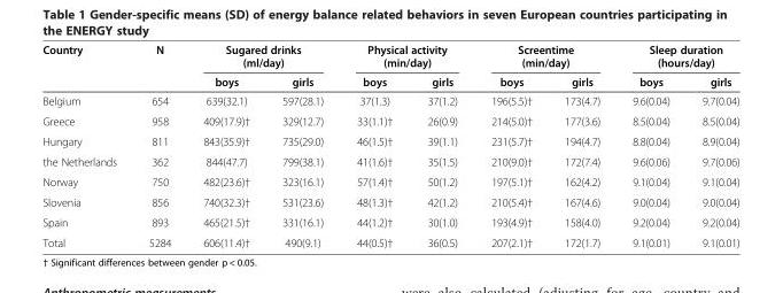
<table><thead><tr><td rowspan="2">Country</td><td rowspan="2">N</td><td colspan="2">Sugared drinks (ml/day)</td><td colspan="2">Physical activity (min/day)</td><td colspan="2">Screentime (min/day)</td><td colspan="2">Sleep duration (hours/day)</td></tr><tr><td>boys</td><td>girls</td><td>boys</td><td>girls</td><td>boys</td><td>girls</td><td>boys</td><td>girls</td></tr></thead><tbody><tr><td>Belgium</td><td>654</td><td>639(32.1)</td><td>597(28.1)</td><td>37(1.3)</td><td>37(1.2)</td><td>196(5.5)†</td><td>173(4.7)</td><td>9.6(0.04)</td><td>9.7(0.04)</td></tr><tr><td>Greece</td><td>958</td><td>409(17.9)†</td><td>329(12.7)</td><td>33(1.1)†</td><td>26(0.9)</td><td>214(5.0)†</td><td>177(3.6)</td><td>8.5(0.04)</td><td>8.5(0.04)</td></tr><tr><td>Hungary</td><td>811</td><td>843(35.9)†</td><td>735(29.0)</td><td>46(1.5)†</td><td>39(1.1)</td><td>231(5.7)†</td><td>194(4.7)</td><td>8.8(0.04)</td><td>8.9(0.04)</td></tr><tr><td>the Netherlands</td><td>362</td><td>844(47.7)</td><td>799(38.1)</td><td>41(1.6)†</td><td>35(1.5)</td><td>210(9.0)†</td><td>172(7.4)</td><td>9.6(0.06)</td><td>9.7(0.06)</td></tr><tr><td>Norway</td><td>750</td><td>482(23.6)†</td><td>323(16.1)</td><td>57(1.4)†</td><td>50(1.2)</td><td>197(5.1)†</td><td>162(4.2)</td><td>9.1(0.04)</td><td>9.1(0.04)</td></tr><tr><td>Slovenia</td><td>856</td><td>740(32.3)†</td><td>531(23.6)</td><td>48(1.3)†</td><td>42(1.2)</td><td>210(5.4)†</td><td>167(4.6)</td><td>9.0(0.04)</td><td>9.0(0.04)</td></tr><tr><td>Spain</td><td>893</td><td>465(21.5)†</td><td>331(16.1)</td><td>44(1.2)†</td><td>30(1.0)</td><td>193(4.9)†</td><td>158(4.0)</td><td>9.2(0.04)</td><td>9.2(0.04)</td></tr><tr><td>Total</td><td>5284</td><td>606(11.4)†</td><td>490(9.1)</td><td>44(0.5)†</td><td>36(0.5)</td><td>207(2.1)†</td><td>172(1.7)</td><td>9.1(0.01)</td><td>9.1(0.01)</td></tr></tbody></table>